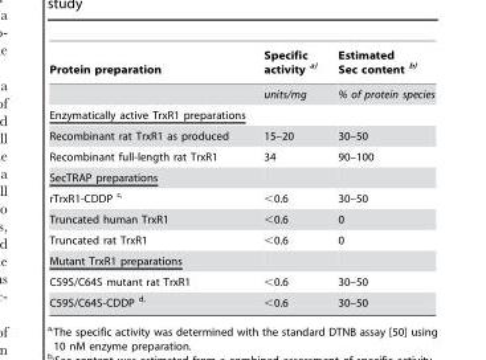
<table><thead><tr><td>Protein preparation</td><td>Specific activity a)</td><td>Estimated Sec content b)</td></tr></thead><tbody><tr><td></td><td>units/mg</td><td>% of protein species</td></tr><tr><td colspan="3">Enzymatically active TrxR1 preparations</td></tr><tr><td>Recombinant rat TrxR1 as produced</td><td>15–20</td><td>30–50</td></tr><tr><td>Recombinant full-length rat TrxR1</td><td>34</td><td>90–100</td></tr><tr><td colspan="3">SecTRAP preparations</td></tr><tr><td>rTrxR1-CDDP c,</td><td>&lt;0.6</td><td>30–50</td></tr><tr><td>Truncated human TrxR1</td><td>&lt;0.6</td><td>0</td></tr><tr><td>Truncated rat TrxR1</td><td>&lt;0.6</td><td>0</td></tr><tr><td colspan="3">Mutant TrxR1 preparations</td></tr><tr><td>C59S/C64S mutant rat TrxR1</td><td>&lt;0.6</td><td>30–50</td></tr><tr><td>C59S/C64S-CDDP d,</td><td>&lt;0.6</td><td>30–50</td></tr></tbody></table>